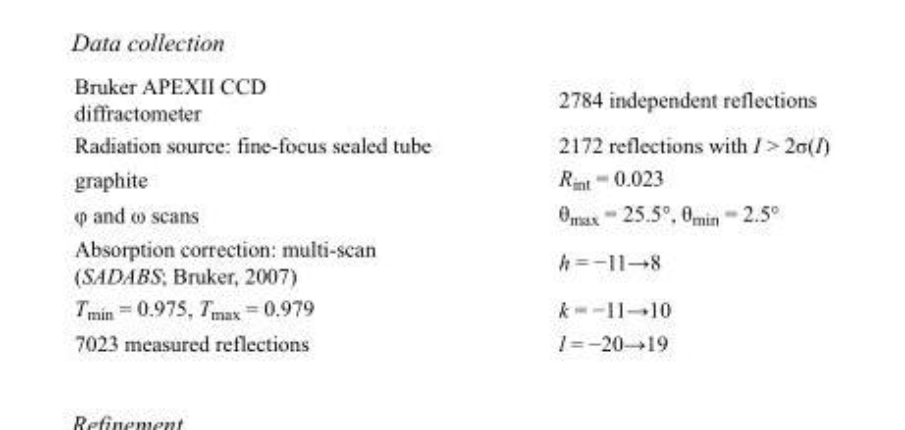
<table><tbody><tr><td>Bruker APEXII CCD diffractometer</td><td>2784 independent reflections</td></tr><tr><td>Radiation source: fine-focus sealed tube</td><td>2172 reflections with I &gt; 2σ(I)</td></tr><tr><td>graphite</td><td>R<sub>int</sub> = 0.023</td></tr><tr><td>φ and ω scans</td><td>θ<sub>max</sub> = 25.5°, θ<sub>min</sub> = 2.5°</td></tr><tr><td>Absorption correction: multi-scan (SADABS; Bruker, 2007)</td><td>h = −11→8</td></tr><tr><td>T<sub>min</sub> = 0.975, T<sub>max</sub> = 0.979</td><td>k = −11→10</td></tr><tr><td>7023 measured reflections</td><td>l = −20→19</td></tr></tbody></table>